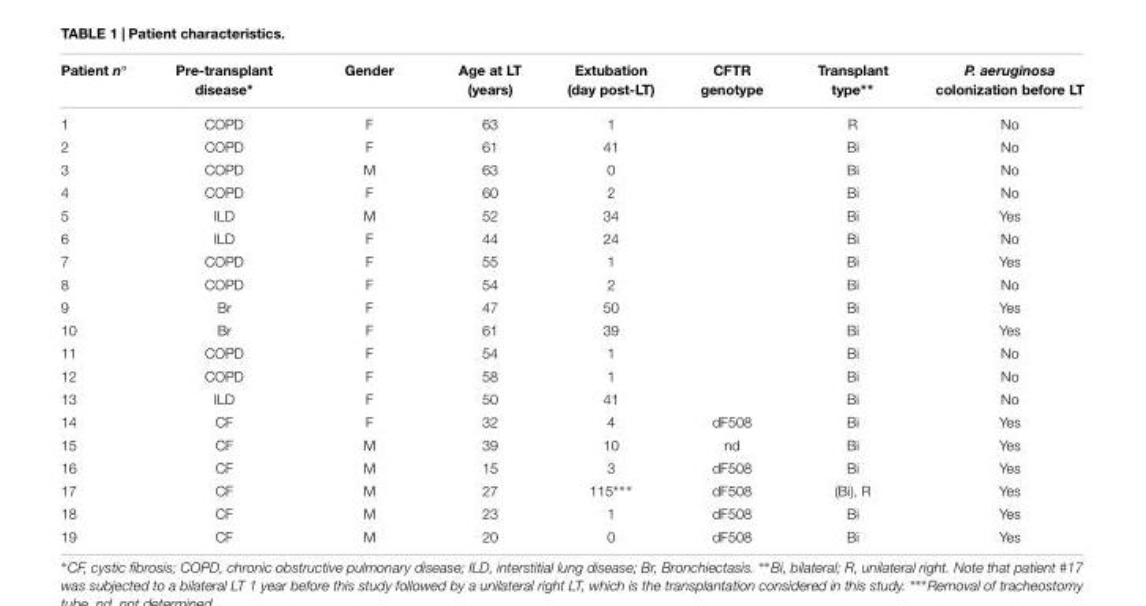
<table><thead><tr><td>Patient n◦</td><td>Pre-transplant disease∗</td><td>Gender</td><td>Age at LT (years)</td><td>Extubation (day post-LT)</td><td>CFTR genotype</td><td>Transplant type∗∗</td><td>P. aeruginosa colonization before LT</td></tr></thead><tbody><tr><td>1</td><td>COPD</td><td>F</td><td>63</td><td>1</td><td></td><td>R</td><td>No</td></tr><tr><td>2</td><td>COPD</td><td>F</td><td>61</td><td>41</td><td></td><td>Bi</td><td>No</td></tr><tr><td>3</td><td>COPD</td><td>M</td><td>63</td><td>0</td><td></td><td>Bi</td><td>No</td></tr><tr><td>4</td><td>COPD</td><td>F</td><td>60</td><td>2</td><td></td><td>Bi</td><td>No</td></tr><tr><td>5</td><td>ILD</td><td>M</td><td>52</td><td>34</td><td></td><td>Bi</td><td>Yes</td></tr><tr><td>6</td><td>ILD</td><td>F</td><td>44</td><td>24</td><td></td><td>Bi</td><td>No</td></tr><tr><td>7</td><td>COPD</td><td>F</td><td>55</td><td>1</td><td></td><td>Bi</td><td>Yes</td></tr><tr><td>8</td><td>COPD</td><td>F</td><td>54</td><td>2</td><td></td><td>Bi</td><td>No</td></tr><tr><td>9</td><td>Br</td><td>F</td><td>47</td><td>50</td><td></td><td>Bi</td><td>Yes</td></tr><tr><td>10</td><td>Br</td><td>F</td><td>61</td><td>39</td><td></td><td>Bi</td><td>Yes</td></tr><tr><td>11</td><td>COPD</td><td>F</td><td>54</td><td>1</td><td></td><td>Bi</td><td>No</td></tr><tr><td>12</td><td>COPD</td><td>F</td><td>58</td><td>1</td><td></td><td>Bi</td><td>No</td></tr><tr><td>13</td><td>ILD</td><td>F</td><td>50</td><td>41</td><td></td><td>Bi</td><td>No</td></tr><tr><td>14</td><td>CF</td><td>F</td><td>32</td><td>4</td><td>dF508</td><td>Bi</td><td>Yes</td></tr><tr><td>15</td><td>CF</td><td>M</td><td>39</td><td>10</td><td>nd</td><td>Bi</td><td>Yes</td></tr><tr><td>16</td><td>CF</td><td>M</td><td>15</td><td>3</td><td>dF508</td><td>Bi</td><td>Yes</td></tr><tr><td>17</td><td>CF</td><td>M</td><td>27</td><td>115∗∗∗</td><td>dF508</td><td>(Bi), R</td><td>Yes</td></tr><tr><td>18</td><td>CF</td><td>M</td><td>23</td><td>1</td><td>dF508</td><td>Bi</td><td>Yes</td></tr><tr><td>19</td><td>CF</td><td>M</td><td>20</td><td>0</td><td>dF508</td><td>Bi</td><td>Yes</td></tr></tbody></table>